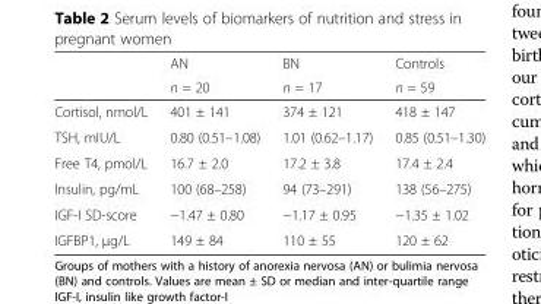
<table><thead><tr><td rowspan="2"></td><td rowspan="2">AN n = 20</td><td rowspan="2">BN n = 17</td><td rowspan="2">Controls n = 59</td></tr><tr></tr></thead><tbody><tr><td>Cortisol, nmol/L</td><td>401 ± 141</td><td>374 ± 121</td><td>418 ± 147</td></tr><tr><td>TSH, mIU/L</td><td>0.80 (0.51–1.08)</td><td>1.01 (0.62–1.17)</td><td>0.85 (0.51–1.30)</td></tr><tr><td>Free T4, pmol/L</td><td>16.7 ± 2.0</td><td>17.2 ± 3.8</td><td>17.4 ± 2.4</td></tr><tr><td>Insulin, pg/mL</td><td>100 (68–258)</td><td>94 (73–291)</td><td>138 (56–275)</td></tr><tr><td>IGF-I SD-score</td><td>−1.47 ± 0.80</td><td>−1.17 ± 0.95</td><td>−1.35 ± 1.02</td></tr><tr><td>IGFBP1, μg/L</td><td>149 ± 84</td><td>110 ± 55</td><td>120 ± 62</td></tr></tbody></table>